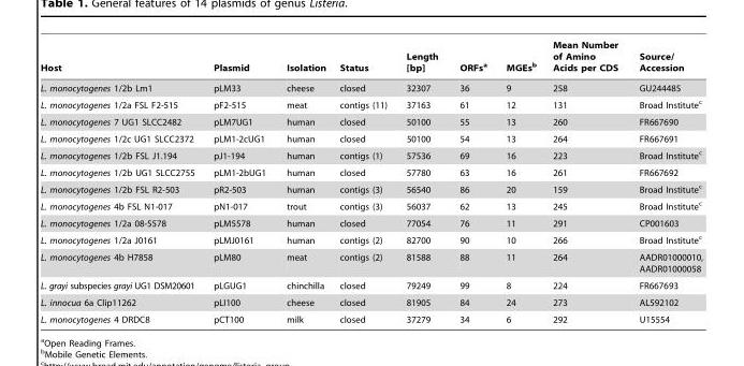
<table><thead><tr><td>Host</td><td>Plasmid</td><td>Isolation</td><td>Status</td><td>Length [bp]</td><td>ORFs<sup>a</sup></td><td>MGEs<sup>b</sup></td><td>Mean Number of Amino Acids per CDS</td><td>Source/ Accession</td></tr></thead><tbody><tr><td>L. monocytogenes 1/2b Lm1</td><td>pLM33</td><td>cheese</td><td>closed</td><td>32307</td><td>36</td><td>9</td><td>258</td><td>GU244485</td></tr><tr><td>L. monocytogenes 1/2a FSL F2-515</td><td>pF2-515</td><td>meat</td><td>contigs (11)</td><td>37163</td><td>61</td><td>12</td><td>131</td><td>Broad Institute<sup>c</sup></td></tr><tr><td>L. monocytogenes 7 UG1 SLCC2482</td><td>pLM7UG1</td><td>human</td><td>closed</td><td>50100</td><td>55</td><td>13</td><td>260</td><td>FR667690</td></tr><tr><td>L. monocytogenes 1/2c UG1 SLCC2372</td><td>pLM1-2cUG1</td><td>human</td><td>closed</td><td>50100</td><td>54</td><td>13</td><td>264</td><td>FR667691</td></tr><tr><td>L. monocytogenes 1/2b FSL J1.194</td><td>pJ1-194</td><td>human</td><td>contigs (1)</td><td>57536</td><td>69</td><td>16</td><td>223</td><td>Broad Institute<sup>c</sup></td></tr><tr><td>L. monocytogenes 1/2b UG1 SLCC2755</td><td>pLM1-2bUG1</td><td>human</td><td>closed</td><td>57780</td><td>63</td><td>16</td><td>261</td><td>FR667692</td></tr><tr><td>L. monocytogenes 1/2b FSL R2-503</td><td>pR2-503</td><td>human</td><td>contigs (3)</td><td>56540</td><td>86</td><td>20</td><td>159</td><td>Broad Institute<sup>c</sup></td></tr><tr><td>L. monocytogenes 4b FSL N1-017</td><td>pN1-017</td><td>trout</td><td>contigs (3)</td><td>56037</td><td>62</td><td>13</td><td>245</td><td>Broad Institute<sup>c</sup></td></tr><tr><td>L. monocytogenes 1/2a 08-5578</td><td>pLM5578</td><td>human</td><td>closed</td><td>77054</td><td>76</td><td>11</td><td>291</td><td>CP001603</td></tr><tr><td>L. monocytogenes 1/2a J0161</td><td>pLMJ0161</td><td>human</td><td>contigs (2)</td><td>82700</td><td>90</td><td>10</td><td>266</td><td>Broad Institute<sup>c</sup></td></tr><tr><td>L. monocytogenes 4b H7858</td><td>pLM80</td><td>meat</td><td>contigs (2)</td><td>81588</td><td>88</td><td>11</td><td>264</td><td>AADR01000010, AADR01000058</td></tr><tr><td>L. grayi subspecies grayi UG1 DSM20601</td><td>pLGUG1</td><td>chinchilla</td><td>closed</td><td>79249</td><td>99</td><td>8</td><td>224</td><td>FR667693</td></tr><tr><td>L. innocua 6a Clip11262</td><td>pLI100</td><td>cheese</td><td>closed</td><td>81905</td><td>84</td><td>24</td><td>273</td><td>AL592102</td></tr><tr><td>L. monocytogenes 4 DRDC8</td><td>pCT100</td><td>milk</td><td>closed</td><td>37279</td><td>34</td><td>6</td><td>292</td><td>U15554</td></tr></tbody></table>